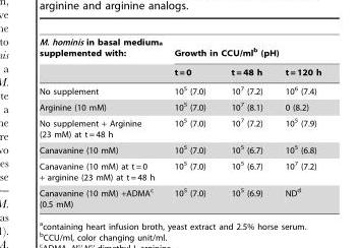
<table><thead><tr><td rowspan="2">M. hominis in basal medium<sup>a</sup> supplemented with:</td><td colspan="3">Growth in CCU/ml<sup>b</sup> (pH)</td></tr><tr><td>t = 0</td><td>t = 48 h</td><td>t = 120 h</td></tr></thead><tbody><tr><td>No supplement</td><td>10<sup>5</sup> (7.0)</td><td>10<sup>7</sup> (7.2)</td><td>10<sup>6</sup> (7.4)</td></tr><tr><td>Arginine (10 mM)</td><td>10<sup>5</sup> (7.0)</td><td>10<sup>7</sup> (8.1)</td><td>0 (8.2)</td></tr><tr><td>No supplement + Arginine (23 mM) at t = 48 h</td><td>10<sup>5</sup> (7.0)</td><td>10<sup>7</sup> (7.2)</td><td>10<sup>5</sup> (7.9)</td></tr><tr><td>Canavanine (10 mM)</td><td>10<sup>5</sup> (7.0)</td><td>10<sup>5</sup> (6.7)</td><td>10<sup>5</sup> (6.8)</td></tr><tr><td>Canavanine (10 mM) at t = 0 + arginine (23 mM) at t = 48 h</td><td>10<sup>5</sup> (7.0)</td><td>10<sup>5</sup> (6.7)</td><td>10<sup>7</sup> (7.2)</td></tr><tr><td>Canavanine (10 mM) +ADMA<sup>c</sup> (0.5 mM)</td><td>10<sup>5</sup> (7.0)</td><td>10<sup>5</sup> (6.9)</td><td>ND<sup>d</sup></td></tr></tbody></table>